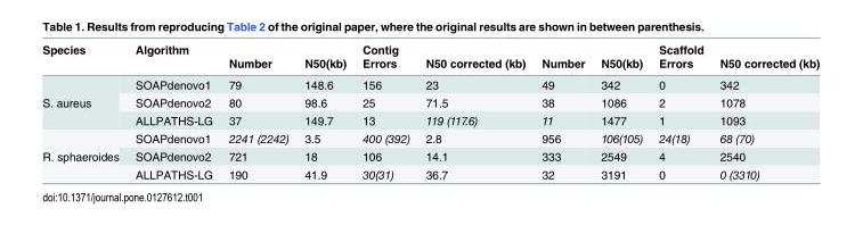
<table><thead><tr><td rowspan="2">Species</td><td rowspan="2">Algorithm</td><td rowspan="2">Number</td><td rowspan="2">N50(kb)</td><td rowspan="2">Contig Errors</td><td rowspan="2">N50 corrected (kb)</td><td rowspan="2">Number</td><td rowspan="2">N50(kb)</td><td rowspan="2">Scaffold Errors</td><td rowspan="2">N50 corrected (kb)</td></tr><tr></tr></thead><tbody><tr><td rowspan="3">S. aureus</td><td>SOAPdenovo1</td><td>79</td><td>148.6</td><td>156</td><td>23</td><td>49</td><td>342</td><td>0</td><td>342</td></tr><tr><td>SOAPdenovo2</td><td>80</td><td>98.6</td><td>25</td><td>71.5</td><td>38</td><td>1086</td><td>2</td><td>1078</td></tr><tr><td>ALLPATHS-LG</td><td>37</td><td>149.7</td><td>13</td><td>119 (117.6)</td><td>11</td><td>1477</td><td>1</td><td>1093</td></tr><tr><td rowspan="3">R. sphaeroides</td><td>SOAPdenovo1</td><td>2241 (2242)</td><td>3.5</td><td>400 (392)</td><td>2.8</td><td>956</td><td>106(105)</td><td>24(18)</td><td>68 (70)</td></tr><tr><td>SOAPdenovo2</td><td>721</td><td>18</td><td>106</td><td>14.1</td><td>333</td><td>2549</td><td>4</td><td>2540</td></tr><tr><td>ALLPATHS-LG</td><td>190</td><td>41.9</td><td>30(31)</td><td>36.7</td><td>32</td><td>3191</td><td>0</td><td>0 (3310)</td></tr></tbody></table>